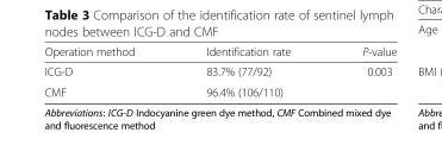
<table><thead><tr><td>Operation method</td><td>Identification rate</td><td>P-value</td></tr></thead><tbody><tr><td>ICG-D</td><td>83.7% (77/92)</td><td>0.003</td></tr><tr><td>CMF</td><td>96.4% (106/110)</td><td></td></tr></tbody></table>